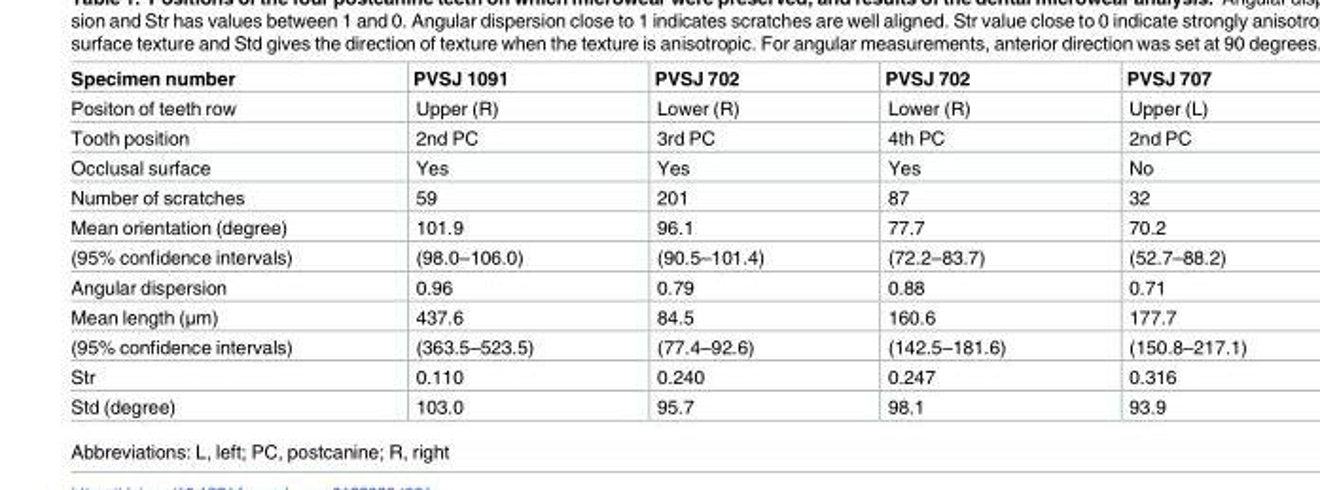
<table><thead><tr><td>Specimen number</td><td>PVSJ 1091</td><td>PVSJ 702</td><td>PVSJ 702</td><td>PVSJ 707</td></tr></thead><tbody><tr><td>Positon of teeth row</td><td>Upper (R)</td><td>Lower (R)</td><td>Lower (R)</td><td>Upper (L)</td></tr><tr><td>Tooth position</td><td>2nd PC</td><td>3rd PC</td><td>4th PC</td><td>2nd PC</td></tr><tr><td>Occlusal surface</td><td>Yes</td><td>Yes</td><td>Yes</td><td>No</td></tr><tr><td>Number of scratches</td><td>59</td><td>201</td><td>87</td><td>32</td></tr><tr><td>Mean orientation (degree)</td><td>101.9</td><td>96.1</td><td>77.7</td><td>70.2</td></tr><tr><td>(95% confidence intervals)</td><td>(98.0–106.0)</td><td>(90.5–101.4)</td><td>(72.2–83.7)</td><td>(52.7–88.2)</td></tr><tr><td>Angular dispersion</td><td>0.96</td><td>0.79</td><td>0.88</td><td>0.71</td></tr><tr><td>Mean length (μm)</td><td>437.6</td><td>84.5</td><td>160.6</td><td>177.7</td></tr><tr><td>(95% confidence intervals)</td><td>(363.5–523.5)</td><td>(77.4–92.6)</td><td>(142.5–181.6)</td><td>(150.8–217.1)</td></tr><tr><td>Str</td><td>0.110</td><td>0.240</td><td>0.247</td><td>0.316</td></tr><tr><td>Std (degree)</td><td>103.0</td><td>95.7</td><td>98.1</td><td>93.9</td></tr></tbody></table>